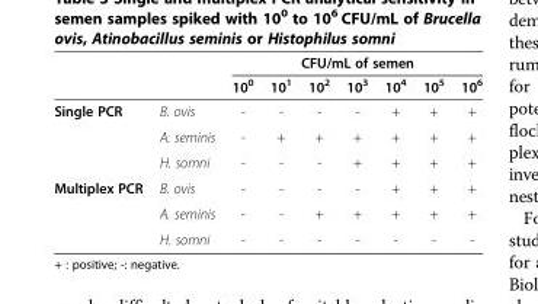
<table><thead><tr><td rowspan="2"></td><td rowspan="2"></td><td colspan="7">CFU/mL of semen</td></tr><tr><td>10<sup>0</sup></td><td>10<sup>1</sup></td><td>10<sup>2</sup></td><td>10<sup>3</sup></td><td>10<sup>4</sup></td><td>10<sup>5</sup></td><td>10<sup>6</sup></td></tr></thead><tbody><tr><td rowspan="3">Single PCR</td><td>B. ovis</td><td>-</td><td>-</td><td>-</td><td>-</td><td>+</td><td>+</td><td>+</td></tr><tr><td>A. seminis</td><td>-</td><td>+</td><td>+</td><td>+</td><td>+</td><td>+</td><td>+</td></tr><tr><td>H. somni</td><td>-</td><td>-</td><td>-</td><td>+</td><td>+</td><td>+</td><td>+</td></tr><tr><td rowspan="3">Multiplex PCR</td><td>B. ovis</td><td>-</td><td>-</td><td>-</td><td>-</td><td>+</td><td>+</td><td>+</td></tr><tr><td>A. seminis</td><td>-</td><td>-</td><td>+</td><td>+</td><td>+</td><td>+</td><td>+</td></tr><tr><td>H. somni</td><td>-</td><td>-</td><td>-</td><td>-</td><td>-</td><td>-</td><td>-</td></tr></tbody></table>